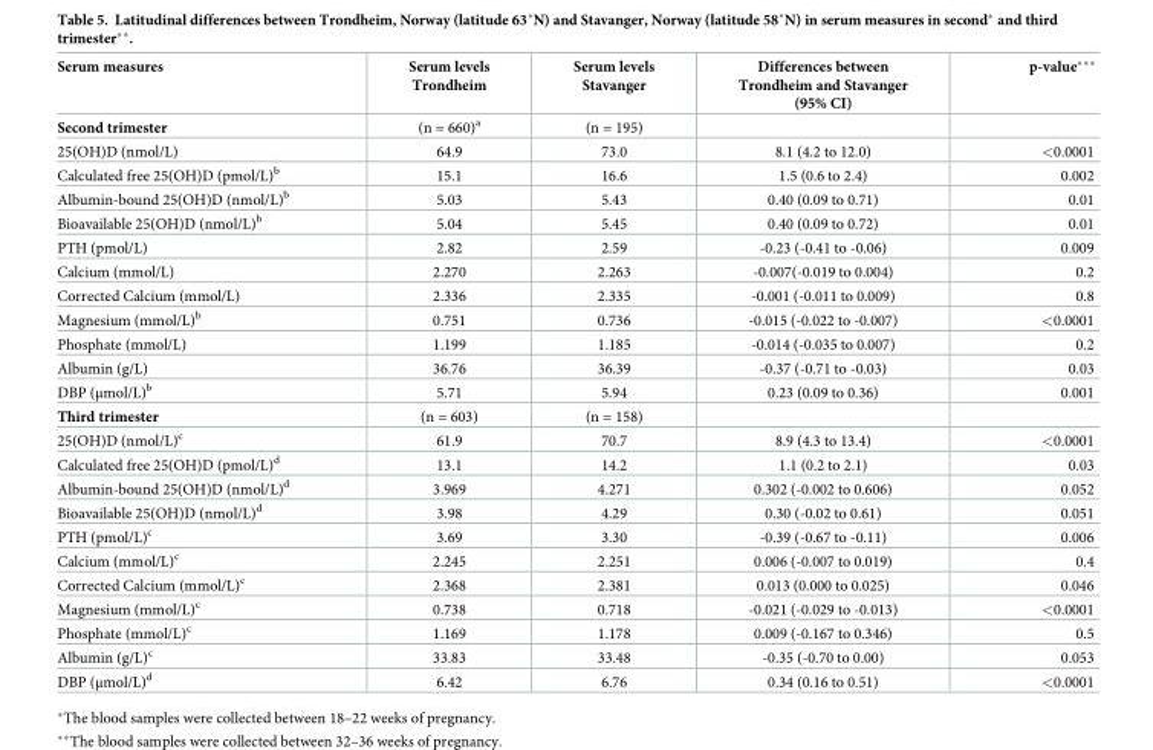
<table><thead><tr><td>Serum measures</td><td>Serum levels Trondheim</td><td>Serum levels Stavanger</td><td>Differences between Trondheim and Stavanger (95% CI)</td><td>p-value***</td></tr></thead><tbody><tr><td>Second trimester</td><td>(n = 660)<sup>a</sup></td><td>(n = 195)</td><td></td><td></td></tr><tr><td>25(OH)D (nmol/L)</td><td>64.9</td><td>73.0</td><td>8.1 (4.2 to 12.0)</td><td>&lt;0.0001</td></tr><tr><td>Calculated free 25(OH)D (pmol/L)<sup>b</sup></td><td>15.1</td><td>16.6</td><td>1.5 (0.6 to 2.4)</td><td>0.002</td></tr><tr><td>Albumin-bound 25(OH)D (nmol/L)<sup>b</sup></td><td>5.03</td><td>5.43</td><td>0.40 (0.09 to 0.71)</td><td>0.01</td></tr><tr><td>Bioavailable 25(OH)D (nmol/L)<sup>b</sup></td><td>5.04</td><td>5.45</td><td>0.40 (0.09 to 0.72)</td><td>0.01</td></tr><tr><td>PTH (pmol/L)</td><td>2.82</td><td>2.59</td><td>-0.23 (-0.41 to -0.06)</td><td>0.009</td></tr><tr><td>Calcium (mmol/L)</td><td>2.270</td><td>2.263</td><td>-0.007(-0.019 to 0.004)</td><td>0.2</td></tr><tr><td>Corrected Calcium (mmol/L)</td><td>2.336</td><td>2.335</td><td>-0.001 (-0.011 to 0.009)</td><td>0.8</td></tr><tr><td>Magnesium (mmol/L)<sup>b</sup></td><td>0.751</td><td>0.736</td><td>-0.015 (-0.022 to -0.007)</td><td>&lt;0.0001</td></tr><tr><td>Phosphate (mmol/L)</td><td>1.199</td><td>1.185</td><td>-0.014 (-0.035 to 0.007)</td><td>0.2</td></tr><tr><td>Albumin (g/L)</td><td>36.76</td><td>36.39</td><td>-0.37 (-0.71 to -0.03)</td><td>0.03</td></tr><tr><td>DBP (μmol/L)<sup>b</sup></td><td>5.71</td><td>5.94</td><td>0.23 (0.09 to 0.36)</td><td>0.001</td></tr><tr><td>Third trimester</td><td>(n = 603)</td><td>(n = 158)</td><td></td><td></td></tr><tr><td>25(OH)D (nmol/L)<sup>c</sup></td><td>61.9</td><td>70.7</td><td>8.9 (4.3 to 13.4)</td><td>&lt;0.0001</td></tr><tr><td>Calculated free 25(OH)D (pmol/L)<sup>d</sup></td><td>13.1</td><td>14.2</td><td>1.1 (0.2 to 2.1)</td><td>0.03</td></tr><tr><td>Albumin-bound 25(OH)D (nmol/L)<sup>d</sup></td><td>3.969</td><td>4.271</td><td>0.302 (-0.002 to 0.606)</td><td>0.052</td></tr><tr><td>Bioavailable 25(OH)D (nmol/L)<sup>d</sup></td><td>3.98</td><td>4.29</td><td>0.30 (-0.02 to 0.61)</td><td>0.051</td></tr><tr><td>PTH (pmol/L)<sup>c</sup></td><td>3.69</td><td>3.30</td><td>-0.39 (-0.67 to -0.11)</td><td>0.006</td></tr><tr><td>Calcium (mmol/L)<sup>c</sup></td><td>2.245</td><td>2.251</td><td>0.006 (-0.007 to 0.019)</td><td>0.4</td></tr><tr><td>Corrected Calcium (mmol/L)<sup>c</sup></td><td>2.368</td><td>2.381</td><td>0.013 (0.000 to 0.025)</td><td>0.046</td></tr><tr><td>Magnesium (mmol/L)<sup>c</sup></td><td>0.738</td><td>0.718</td><td>-0.021 (-0.029 to -0.013)</td><td>&lt;0.0001</td></tr><tr><td>Phosphate (mmol/L)<sup>c</sup></td><td>1.169</td><td>1.178</td><td>0.009 (-0.167 to 0.346)</td><td>0.5</td></tr><tr><td>Albumin (g/L)<sup>c</sup></td><td>33.83</td><td>33.48</td><td>-0.35 (-0.70 to 0.00)</td><td>0.053</td></tr><tr><td>DBP (μmol/L)<sup>d</sup></td><td>6.42</td><td>6.76</td><td>0.34 (0.16 to 0.51)</td><td>&lt;0.0001</td></tr></tbody></table>